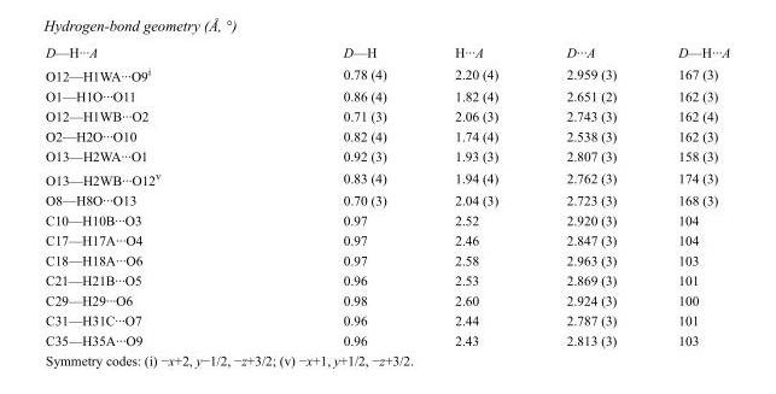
<table><tbody><tr><td>D—H···A</td><td>D—H</td><td>H···A</td><td>D···A</td><td>D—H···A</td></tr><tr><td>O12—H1WA···O9<sup>i</sup></td><td>0.78 (4)</td><td>2.20 (4)</td><td>2.959 (3)</td><td>167 (3)</td></tr><tr><td>O1—H1O···O11</td><td>0.86 (4)</td><td>1.82 (4)</td><td>2.651 (2)</td><td>162 (3)</td></tr><tr><td>O12—H1WB···O2</td><td>0.71 (3)</td><td>2.06 (3)</td><td>2.743 (3)</td><td>162 (4)</td></tr><tr><td>O2—H2O···O10</td><td>0.82 (4)</td><td>1.74 (4)</td><td>2.538 (3)</td><td>162 (3)</td></tr><tr><td>O13—H2WA···O1</td><td>0.92 (3)</td><td>1.93 (3)</td><td>2.807 (3)</td><td>158 (3)</td></tr><tr><td>O13—H2WB···O12<sup>v</sup></td><td>0.83 (4)</td><td>1.94 (4)</td><td>2.762 (3)</td><td>174 (3)</td></tr><tr><td>O8—H8O···O13</td><td>0.70 (3)</td><td>2.04 (3)</td><td>2.723 (3)</td><td>168 (3)</td></tr><tr><td>C10—H10B···O3</td><td>0.97</td><td>2.52</td><td>2.920 (3)</td><td>104</td></tr><tr><td>C17—H17A···O4</td><td>0.97</td><td>2.46</td><td>2.847 (3)</td><td>104</td></tr><tr><td>C18—H18A···O6</td><td>0.97</td><td>2.58</td><td>2.963 (3)</td><td>103</td></tr><tr><td>C21—H21B···O5</td><td>0.96</td><td>2.53</td><td>2.869 (3)</td><td>101</td></tr><tr><td>C29—H29···O6</td><td>0.98</td><td>2.60</td><td>2.924 (3)</td><td>100</td></tr><tr><td>C31—H31C···O7</td><td>0.96</td><td>2.44</td><td>2.787 (3)</td><td>101</td></tr><tr><td>C35—H35A···O9</td><td>0.96</td><td>2.43</td><td>2.813 (3)</td><td>103</td></tr></tbody></table>